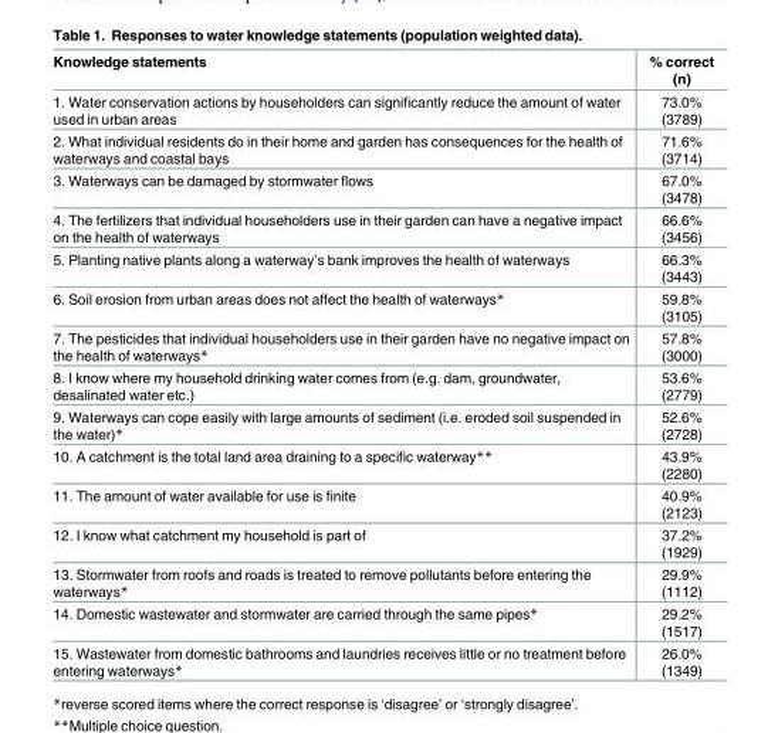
<table><thead><tr><td>Knowledge statements</td><td>% correct (n)</td></tr></thead><tbody><tr><td>1. Water conservation actions by householders can significantly reduce the amount of water used in urban areas</td><td>73.0% (3789)</td></tr><tr><td>2. What individual residents do in their home and garden has consequences for the health of waterways and coastal bays</td><td>71.6% (3714)</td></tr><tr><td>3. Waterways can be damaged by stormwater flows</td><td>67.0% (3478)</td></tr><tr><td>4. The fertilizers that individual householders use in their garden can have a negative impact on the health of waterways</td><td>66.6% (3456)</td></tr><tr><td>5. Planting native plants along a waterway’s bank improves the health of waterways</td><td>66.3% (3443)</td></tr><tr><td>6. Soil erosion from urban areas does not affect the health of waterways*</td><td>59.8% (3105)</td></tr><tr><td>7. The pesticides that individual householders use in their garden have no negative impact on the health of waterways*</td><td>57.8% (3000)</td></tr><tr><td>8. I know where my household drinking water comes from (e.g. dam, groundwater, desalinated water etc.)</td><td>53.6% (2779)</td></tr><tr><td>9. Waterways can cope easily with large amounts of sediment (i.e. eroded soil suspended in the water)*</td><td>52.6% (2728)</td></tr><tr><td>10. A catchment is the total land area draining to a specific waterway**</td><td>43.9% (2280)</td></tr><tr><td>11. The amount of water available for use is finite</td><td>40.9% (2123)</td></tr><tr><td>12. I know what catchment my household is part of</td><td>37.2% (1929)</td></tr><tr><td>13. Stormwater from roofs and roads is treated to remove pollutants before entering the waterways*</td><td>29.9% (1112)</td></tr><tr><td>14. Domestic wastewater and stormwater are carried through the same pipes*</td><td>29.2% (1517)</td></tr><tr><td>15. Wastewater from domestic bathrooms and laundries receives little or no treatment before entering waterways*</td><td>26.0% (1349)</td></tr></tbody></table>